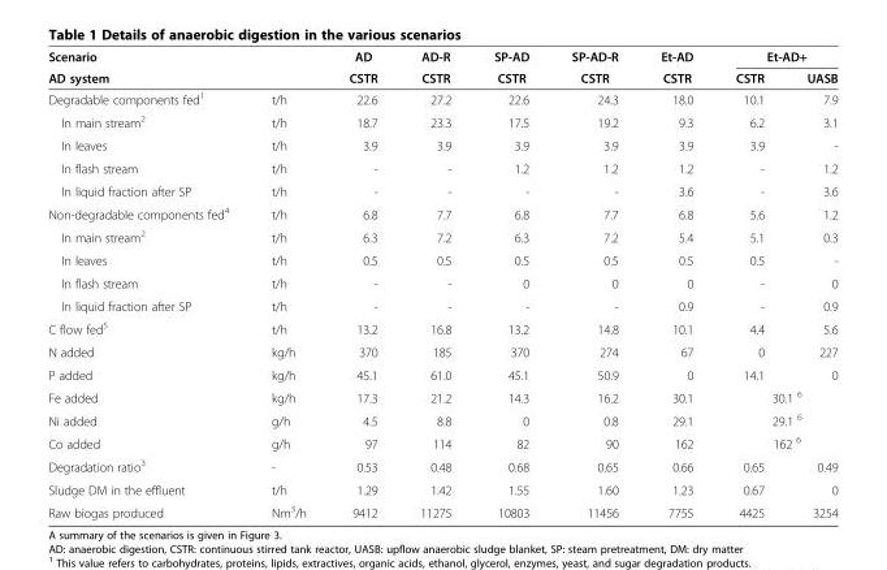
<table><thead><tr><td rowspan="2">Scenario AD system</td><td rowspan="2"></td><td rowspan="2">AD CSTR</td><td rowspan="2">AD-R CSTR</td><td rowspan="2">SP-AD CSTR</td><td rowspan="2">SP-AD-R CSTR</td><td rowspan="2">Et-AD CSTR</td><td colspan="2">Et-AD+</td></tr><tr><td>CSTR</td><td>UASB</td></tr></thead><tbody><tr><td>Degradable components fed<sup>1</sup></td><td>t/h</td><td>22.6</td><td>27.2</td><td>22.6</td><td>24.3</td><td>18.0</td><td>10.1</td><td>7.9</td></tr><tr><td>In main stream<sup>2</sup></td><td>t/h</td><td>18.7</td><td>23.3</td><td>17.5</td><td>19.2</td><td>9.3</td><td>6.2</td><td>3.1</td></tr><tr><td>In leaves</td><td>t/h</td><td>3.9</td><td>3.9</td><td>3.9</td><td>3.9</td><td>3.9</td><td>3.9</td><td>-</td></tr><tr><td>In flash stream</td><td>t/h</td><td>-</td><td>-</td><td>1.2</td><td>1.2</td><td>1.2</td><td>-</td><td>1.2</td></tr><tr><td>In liquid fraction after SP</td><td>t/h</td><td>-</td><td>-</td><td>-</td><td>-</td><td>3.6</td><td>-</td><td>3.6</td></tr><tr><td>Non-degradable components fed<sup>4</sup></td><td>t/h</td><td>6.8</td><td>7.7</td><td>6.8</td><td>7.7</td><td>6.8</td><td>5.6</td><td>1.2</td></tr><tr><td>In main stream<sup>2</sup></td><td>t/h</td><td>6.3</td><td>7.2</td><td>6.3</td><td>7.2</td><td>5.4</td><td>5.1</td><td>0.3</td></tr><tr><td>In leaves</td><td>t/h</td><td>0.5</td><td>0.5</td><td>0.5</td><td>0.5</td><td>0.5</td><td>0.5</td><td>-</td></tr><tr><td>In flash stream</td><td>t/h</td><td>-</td><td>-</td><td>0</td><td>0</td><td>0</td><td>-</td><td>0</td></tr><tr><td>In liquid fraction after SP</td><td>t/h</td><td>-</td><td>-</td><td>-</td><td>-</td><td>0.9</td><td>-</td><td>0.9</td></tr><tr><td>C flow fed<sup>5</sup></td><td>t/h</td><td>13.2</td><td>16.8</td><td>13.2</td><td>14.8</td><td>10.1</td><td>4.4</td><td>5.6</td></tr><tr><td>N added</td><td>kg/h</td><td>370</td><td>185</td><td>370</td><td>274</td><td>67</td><td>0</td><td>227</td></tr><tr><td>P added</td><td>kg/h</td><td>45.1</td><td>61.0</td><td>45.1</td><td>50.9</td><td>0</td><td>14.1</td><td>0</td></tr><tr><td>Fe added</td><td>kg/h</td><td>17.3</td><td>21.2</td><td>14.3</td><td>16.2</td><td>30.1</td><td colspan="2">30.1 <sup>6</sup></td></tr><tr><td>Ni added</td><td>g/h</td><td>4.5</td><td>8.8</td><td>0</td><td>0.8</td><td>29.1</td><td colspan="2">29.1 <sup>6</sup></td></tr><tr><td>Co added</td><td>g/h</td><td>97</td><td>114</td><td>82</td><td>90</td><td>162</td><td colspan="2">162 <sup>6</sup></td></tr><tr><td>Degradation ratio<sup>3</sup></td><td>-</td><td>0.53</td><td>0.48</td><td>0.68</td><td>0.65</td><td>0.66</td><td>0.65</td><td>0.49</td></tr><tr><td>Sludge DM in the effluent</td><td>t/h</td><td>1.29</td><td>1.42</td><td>1.55</td><td>1.60</td><td>1.23</td><td>0.67</td><td>0</td></tr><tr><td>Raw biogas produced</td><td>Nm<sup>3</sup>/h</td><td>9412</td><td>11275</td><td>10803</td><td>11456</td><td>7755</td><td>4425</td><td>3254</td></tr></tbody></table>